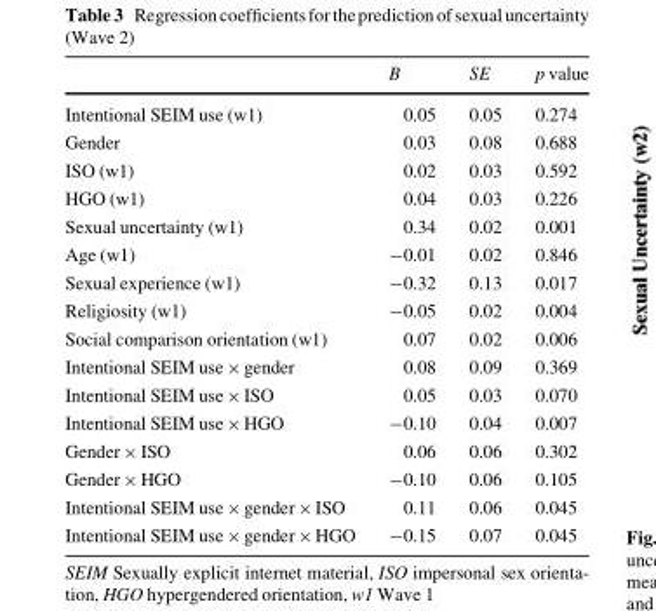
<table><thead><tr><td></td><td>B</td><td>SE</td><td>p value</td></tr></thead><tbody><tr><td>Intentional SEIM use (w1)</td><td>0.05</td><td>0.05</td><td>0.274</td></tr><tr><td>Gender</td><td>0.03</td><td>0.08</td><td>0.688</td></tr><tr><td>ISO (w1)</td><td>0.02</td><td>0.03</td><td>0.592</td></tr><tr><td>HGO (w1)</td><td>0.04</td><td>0.03</td><td>0.226</td></tr><tr><td>Sexual uncertainty (w1)</td><td>0.34</td><td>0.02</td><td>0.001</td></tr><tr><td>Age (w1)</td><td>-0.01</td><td>0.02</td><td>0.846</td></tr><tr><td>Sexual experience (w1)</td><td>-0.32</td><td>0.13</td><td>0.017</td></tr><tr><td>Religiosity (w1)</td><td>-0.05</td><td>0.02</td><td>0.004</td></tr><tr><td>Social comparison orientation (w1)</td><td>0.07</td><td>0.02</td><td>0.006</td></tr><tr><td>Intentional SEIM use × gender</td><td>0.08</td><td>0.09</td><td>0.369</td></tr><tr><td>Intentional SEIM use × ISO</td><td>0.05</td><td>0.03</td><td>0.070</td></tr><tr><td>Intentional SEIM use × HGO</td><td>-0.10</td><td>0.04</td><td>0.007</td></tr><tr><td>Gender × ISO</td><td>0.06</td><td>0.06</td><td>0.302</td></tr><tr><td>Gender × HGO</td><td>-0.10</td><td>0.06</td><td>0.105</td></tr><tr><td>Intentional SEIM use × gender × ISO</td><td>0.11</td><td>0.06</td><td>0.045</td></tr><tr><td>Intentional SEIM use × gender × HGO</td><td>-0.15</td><td>0.07</td><td>0.045</td></tr></tbody></table>